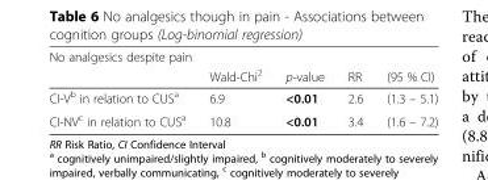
<table><thead><tr><td colspan="5">No analgesics despite pain</td></tr><tr><td></td><td>Wald-Chi<sup>2</sup></td><td>p-value</td><td>RR</td><td>(95 % CI)</td></tr></thead><tbody><tr><td>CI-V<sup>b</sup> in relation to CUS<sup>a</sup></td><td>6.9</td><td>&lt;0.01</td><td>2.6</td><td>(1.3 – 5.1)</td></tr><tr><td>CI-NV<sup>c</sup> in relation to CUS<sup>a</sup></td><td>10.8</td><td>&lt;0.01</td><td>3.4</td><td>(1.6 – 7.2)</td></tr></tbody></table>